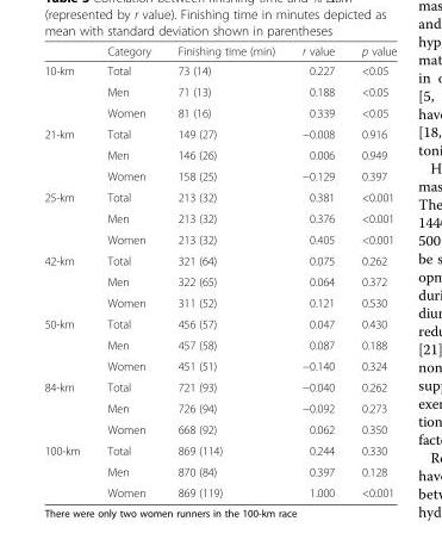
<table><thead><tr><td></td><td>Category</td><td>Finishing time (min)</td><td>r value</td><td>p value</td></tr></thead><tbody><tr><td rowspan="3">10-km</td><td>Total</td><td>73 (14)</td><td>0.227</td><td>&lt;0.05</td></tr><tr><td>Men</td><td>71 (13)</td><td>0.188</td><td>&lt;0.05</td></tr><tr><td>Women</td><td>81 (16)</td><td>0.339</td><td>&lt;0.05</td></tr><tr><td rowspan="3">21-km</td><td>Total</td><td>149 (27)</td><td>−0.008</td><td>0.916</td></tr><tr><td>Men</td><td>146 (26)</td><td>0.006</td><td>0.949</td></tr><tr><td>Women</td><td>158 (25)</td><td>−0.129</td><td>0.397</td></tr><tr><td rowspan="3">25-km</td><td>Total</td><td>213 (32)</td><td>0.381</td><td>&lt;0.001</td></tr><tr><td>Men</td><td>213 (32)</td><td>0.376</td><td>&lt;0.001</td></tr><tr><td>Women</td><td>213 (32)</td><td>0.405</td><td>&lt;0.001</td></tr><tr><td rowspan="3">42-km</td><td>Total</td><td>321 (64)</td><td>0.075</td><td>0.262</td></tr><tr><td>Men</td><td>322 (65)</td><td>0.064</td><td>0.372</td></tr><tr><td>Women</td><td>311 (52)</td><td>0.121</td><td>0.530</td></tr><tr><td rowspan="3">50-km</td><td>Total</td><td>456 (57)</td><td>0.047</td><td>0.430</td></tr><tr><td>Men</td><td>457 (58)</td><td>0.087</td><td>0.188</td></tr><tr><td>Women</td><td>451 (51)</td><td>−0.140</td><td>0.324</td></tr><tr><td rowspan="3">84-km</td><td>Total</td><td>721 (93)</td><td>−0.040</td><td>0.262</td></tr><tr><td>Men</td><td>726 (94)</td><td>−0.092</td><td>0.273</td></tr><tr><td>Women</td><td>668 (92)</td><td>0.062</td><td>0.350</td></tr><tr><td rowspan="3">100-km</td><td>Total</td><td>869 (114)</td><td>0.244</td><td>0.330</td></tr><tr><td>Men</td><td>870 (84)</td><td>0.397</td><td>0.128</td></tr><tr><td>Women</td><td>869 (119)</td><td>1.000</td><td>&lt;0.001</td></tr></tbody></table>